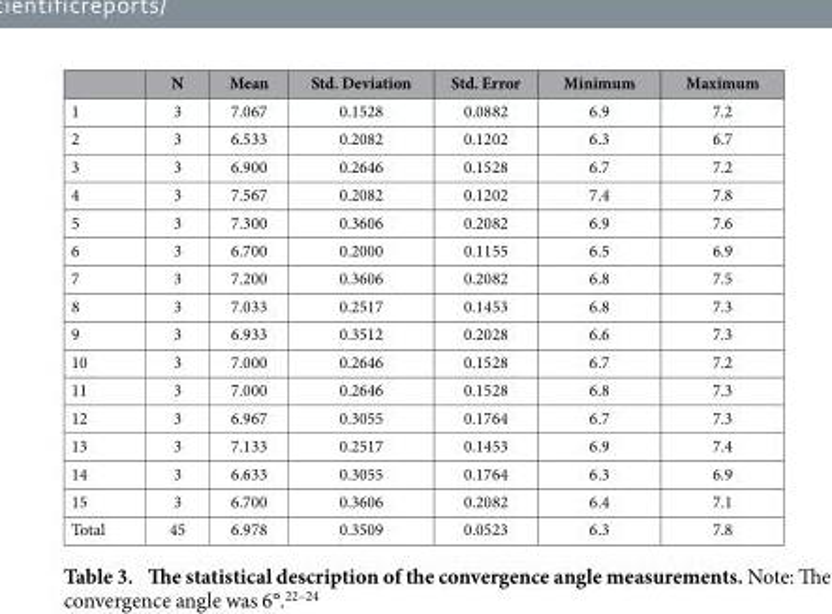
<table><thead><tr><td></td><td>N</td><td>Mean</td><td>Std. Deviation</td><td>Std. Error</td><td>Minimum</td><td>Maximum</td></tr></thead><tbody><tr><td>1</td><td>3</td><td>7.067</td><td>0.1528</td><td>0.0882</td><td>6.9</td><td>7.2</td></tr><tr><td>2</td><td>3</td><td>6.533</td><td>0.2082</td><td>0.1202</td><td>6.3</td><td>6.7</td></tr><tr><td>3</td><td>3</td><td>6.900</td><td>0.2646</td><td>0.1528</td><td>6.7</td><td>7.2</td></tr><tr><td>4</td><td>3</td><td>7.567</td><td>0.2082</td><td>0.1202</td><td>7.4</td><td>7.8</td></tr><tr><td>5</td><td>3</td><td>7.300</td><td>0.3606</td><td>0.2082</td><td>6.9</td><td>7.6</td></tr><tr><td>6</td><td>3</td><td>6.700</td><td>0.2000</td><td>0.1155</td><td>6.5</td><td>6.9</td></tr><tr><td>7</td><td>3</td><td>7.200</td><td>0.3606</td><td>0.2082</td><td>6.8</td><td>7.5</td></tr><tr><td>8</td><td>3</td><td>7.033</td><td>0.2517</td><td>0.1453</td><td>6.8</td><td>7.3</td></tr><tr><td>9</td><td>3</td><td>6.933</td><td>0.3512</td><td>0.2028</td><td>6.6</td><td>7.3</td></tr><tr><td>10</td><td>3</td><td>7.000</td><td>0.2646</td><td>0.1528</td><td>6.7</td><td>7.2</td></tr><tr><td>11</td><td>3</td><td>7.000</td><td>0.2646</td><td>0.1528</td><td>6.8</td><td>7.3</td></tr><tr><td>12</td><td>3</td><td>6.967</td><td>0.3055</td><td>0.1764</td><td>6.7</td><td>7.3</td></tr><tr><td>13</td><td>3</td><td>7.133</td><td>0.2517</td><td>0.1453</td><td>6.9</td><td>7.4</td></tr><tr><td>14</td><td>3</td><td>6.633</td><td>0.3055</td><td>0.1764</td><td>6.3</td><td>6.9</td></tr><tr><td>15</td><td>3</td><td>6.700</td><td>0.3606</td><td>0.2082</td><td>6.4</td><td>7.1</td></tr><tr><td>Total</td><td>45</td><td>6.978</td><td>0.3509</td><td>0.0523</td><td>6.3</td><td>7.8</td></tr></tbody></table>